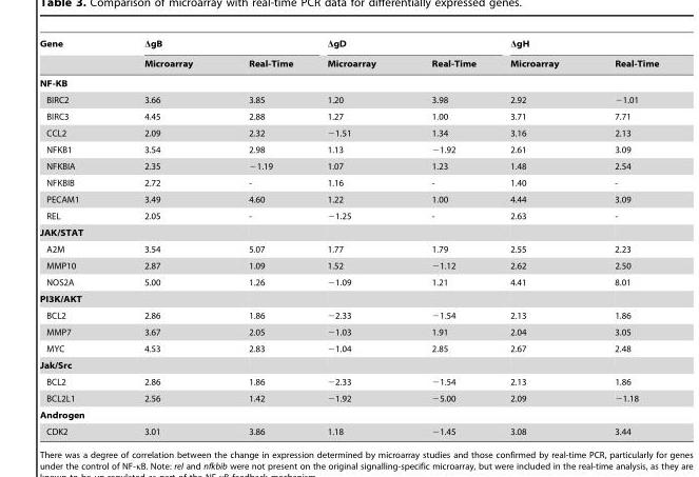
<table><thead><tr><td rowspan="2">Gene</td><td colspan="2">ΔgB</td><td colspan="2">ΔgD</td><td colspan="2">ΔgH</td></tr><tr><td>Microarray</td><td>Real-Time</td><td>Microarray</td><td>Real-Time</td><td>Microarray</td><td>Real-Time</td></tr></thead><tbody><tr><td colspan="7">NF-KB</td></tr><tr><td>BIRC2</td><td>3.66</td><td>3.85</td><td>1.20</td><td>3.98</td><td>2.92</td><td>−1.01</td></tr><tr><td>BIRC3</td><td>4.45</td><td>2.88</td><td>1.27</td><td>1.00</td><td>3.71</td><td>7.71</td></tr><tr><td>CCL2</td><td>2.09</td><td>2.32</td><td>−1.51</td><td>1.34</td><td>3.16</td><td>2.13</td></tr><tr><td>NFKB1</td><td>3.54</td><td>2.98</td><td>1.13</td><td>−1.92</td><td>2.61</td><td>3.09</td></tr><tr><td>NFKBIA</td><td>2.35</td><td>−1.19</td><td>1.07</td><td>1.23</td><td>1.48</td><td>2.54</td></tr><tr><td>NFKBIB</td><td>2.72</td><td>-</td><td>1.16</td><td>-</td><td>1.40</td><td>-</td></tr><tr><td>PECAM1</td><td>3.49</td><td>4.60</td><td>1.22</td><td>1.00</td><td>4.44</td><td>3.09</td></tr><tr><td>REL</td><td>2.05</td><td>-</td><td>−1.25</td><td>-</td><td>2.63</td><td>-</td></tr><tr><td colspan="7">JAK/STAT</td></tr><tr><td>A2M</td><td>3.54</td><td>5.07</td><td>1.77</td><td>1.79</td><td>2.55</td><td>2.23</td></tr><tr><td>MMP10</td><td>2.87</td><td>1.09</td><td>1.52</td><td>−1.12</td><td>2.62</td><td>2.50</td></tr><tr><td>NOS2A</td><td>5.00</td><td>1.26</td><td>−1.09</td><td>1.21</td><td>4.41</td><td>8.01</td></tr><tr><td colspan="7">PI3K/AKT</td></tr><tr><td>BCL2</td><td>2.86</td><td>1.86</td><td>−2.33</td><td>−1.54</td><td>2.13</td><td>1.86</td></tr><tr><td>MMP7</td><td>3.67</td><td>2.05</td><td>−1.03</td><td>1.91</td><td>2.04</td><td>3.05</td></tr><tr><td>MYC</td><td>4.53</td><td>2.83</td><td>−1.04</td><td>2.85</td><td>2.67</td><td>2.48</td></tr><tr><td colspan="7">Jak/Src</td></tr><tr><td>BCL2</td><td>2.86</td><td>1.86</td><td>−2.33</td><td>−1.54</td><td>2.13</td><td>1.86</td></tr><tr><td>BCL2L1</td><td>2.56</td><td>1.42</td><td>−1.92</td><td>−5.00</td><td>2.09</td><td>−1.18</td></tr><tr><td colspan="7">Androgen</td></tr><tr><td>CDK2</td><td>3.01</td><td>3.86</td><td>1.18</td><td>−1.45</td><td>3.08</td><td>3.44</td></tr></tbody></table>